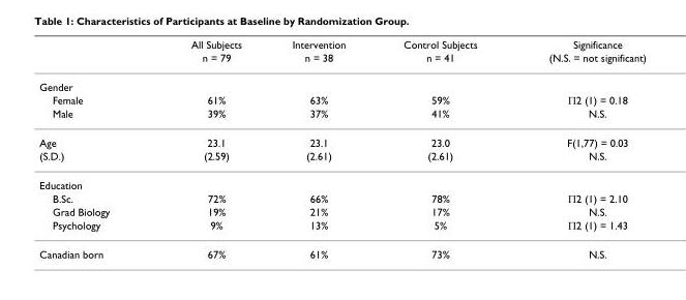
<table><thead><tr><td rowspan="2"></td><td rowspan="2">All Subjects n = 79</td><td rowspan="2">Intervention n = 38</td><td rowspan="2">Control Subjects n = 41</td><td rowspan="2">Significance (N.S. = not significant)</td></tr><tr></tr></thead><tbody><tr><td colspan="5">Gender</td></tr><tr><td>Female</td><td>61%</td><td>63%</td><td>59%</td><td>Π2 (1) = 0.18</td></tr><tr><td>Male</td><td>39%</td><td>37%</td><td>41%</td><td>N.S.</td></tr><tr><td>Age</td><td>23.1</td><td>23.1</td><td>23.0</td><td>F(1,77) = 0.03</td></tr><tr><td>(S.D.)</td><td>(2.59)</td><td>(2.61)</td><td>(2.61)</td><td>N.S.</td></tr><tr><td colspan="5">Education</td></tr><tr><td>B.Sc.</td><td>72%</td><td>66%</td><td>78%</td><td>Π2 (1) = 2.10</td></tr><tr><td>Grad Biology</td><td>19%</td><td>21%</td><td>17%</td><td>N.S.</td></tr><tr><td>Psychology</td><td>9%</td><td>13%</td><td>5%</td><td>Π2 (1) = 1.43</td></tr><tr><td>Canadian born</td><td>67%</td><td>61%</td><td>73%</td><td>N.S.</td></tr></tbody></table>